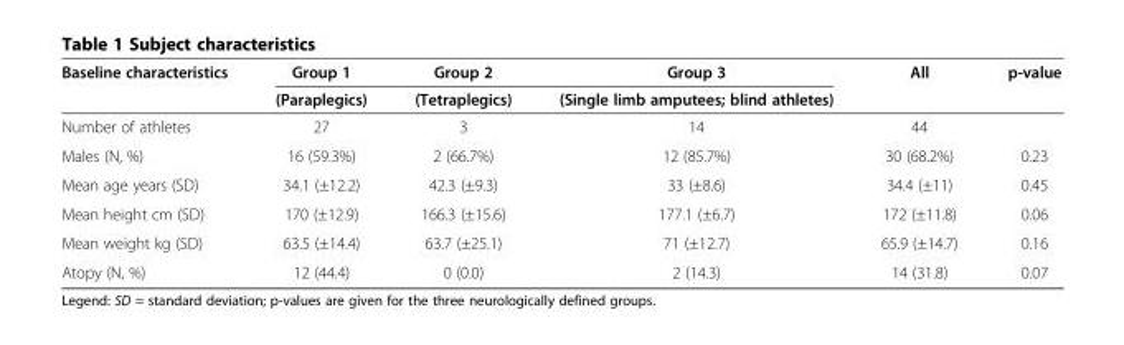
<table><thead><tr><td rowspan="2">Baseline characteristics</td><td rowspan="2">Group 1 (Paraplegics)</td><td rowspan="2">Group 2 (Tetraplegics)</td><td rowspan="2">Group 3 (Single limb amputees; blind athletes)</td><td rowspan="2">All</td><td rowspan="2">p-value</td></tr><tr></tr></thead><tbody><tr><td>Number of athletes</td><td>27</td><td>3</td><td>14</td><td>44</td><td></td></tr><tr><td>Males (N, %)</td><td>16 (59.3%)</td><td>2 (66.7%)</td><td>12 (85.7%)</td><td>30 (68.2%)</td><td>0.23</td></tr><tr><td>Mean age years (SD)</td><td>34.1 (±12.2)</td><td>42.3 (±9.3)</td><td>33 (±8.6)</td><td>34.4 (±11)</td><td>0.45</td></tr><tr><td>Mean height cm (SD)</td><td>170 (±12.9)</td><td>166.3 (±15.6)</td><td>177.1 (±6.7)</td><td>172 (±11.8)</td><td>0.06</td></tr><tr><td>Mean weight kg (SD)</td><td>63.5 (±14.4)</td><td>63.7 (±25.1)</td><td>71 (±12.7)</td><td>65.9 (±14.7)</td><td>0.16</td></tr><tr><td>Atopy (N, %)</td><td>12 (44.4)</td><td>0 (0.0)</td><td>2 (14.3)</td><td>14 (31.8)</td><td>0.07</td></tr></tbody></table>